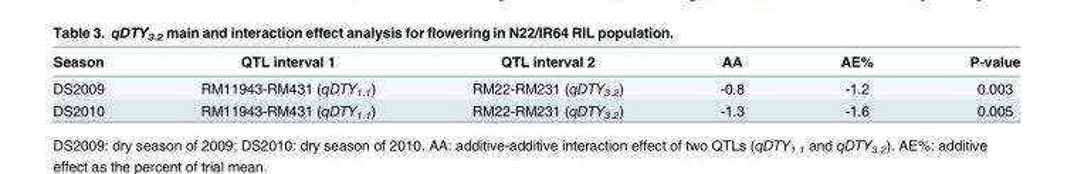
<table><thead><tr><td>Season</td><td>QTL interval 1</td><td>QTL interval 2</td><td>AA</td><td>AE%</td><td>P-value</td></tr></thead><tbody><tr><td>DS2009</td><td>RM11943-RM431 (qDTY<sub>1.1</sub>)</td><td>RM22-RM231 (qDTY<sub>3.2</sub>)</td><td>-0.8</td><td>-1.2</td><td>0.003</td></tr><tr><td>DS2010</td><td>RM11943-RM431 (qDTY<sub>1.1</sub>)</td><td>RM22-RM231 (qDTY<sub>3.2</sub>)</td><td>-1.3</td><td>-1.6</td><td>0.005</td></tr></tbody></table>